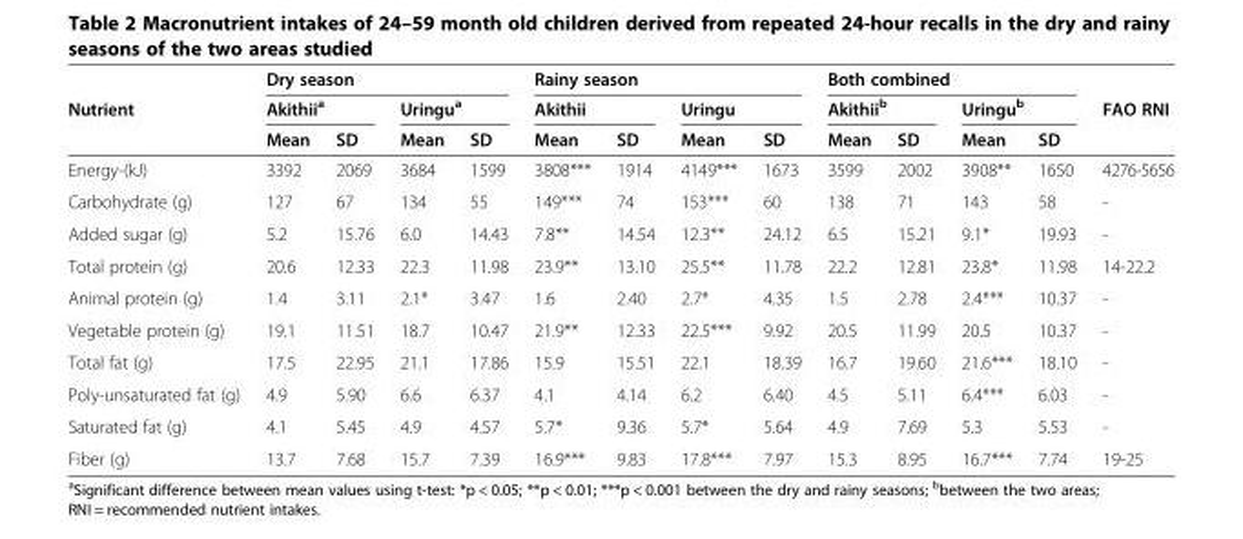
<table><thead><tr><td rowspan="3">Nutrient</td><td colspan="4">Dry season</td><td colspan="4">Rainy season</td><td colspan="4">Both combined</td><td rowspan="3">FAO RNI</td></tr><tr><td colspan="2">Akithii<sup>a</sup></td><td colspan="2">Uringu<sup>a</sup></td><td colspan="2">Akithii</td><td colspan="2">Uringu</td><td colspan="2">Akithii<sup>b</sup></td><td colspan="2">Uringu<sup>b</sup></td></tr><tr><td>Mean</td><td>SD</td><td>Mean</td><td>SD</td><td>Mean</td><td>SD</td><td>Mean</td><td>SD</td><td>Mean</td><td>SD</td><td>Mean</td><td>SD</td></tr></thead><tbody><tr><td>Energy-(kJ)</td><td>3392</td><td>2069</td><td>3684</td><td>1599</td><td>3808***</td><td>1914</td><td>4149***</td><td>1673</td><td>3599</td><td>2002</td><td>3908**</td><td>1650</td><td>4276-5656</td></tr><tr><td>Carbohydrate (g)</td><td>127</td><td>67</td><td>134</td><td>55</td><td>149***</td><td>74</td><td>153***</td><td>60</td><td>138</td><td>71</td><td>143</td><td>58</td><td>-</td></tr><tr><td>Added sugar (g)</td><td>5.2</td><td>15.76</td><td>6.0</td><td>14.43</td><td>7.8**</td><td>14.54</td><td>12.3**</td><td>24.12</td><td>6.5</td><td>15.21</td><td>9.1*</td><td>19.93</td><td>-</td></tr><tr><td>Total protein (g)</td><td>20.6</td><td>12.33</td><td>22.3</td><td>11.98</td><td>23.9**</td><td>13.10</td><td>25.5**</td><td>11.78</td><td>22.2</td><td>12.81</td><td>23.8*</td><td>11.98</td><td>14-22.2</td></tr><tr><td>Animal protein (g)</td><td>1.4</td><td>3.11</td><td>2.1*</td><td>3.47</td><td>1.6</td><td>2.40</td><td>2.7*</td><td>4.35</td><td>1.5</td><td>2.78</td><td>2.4***</td><td>10.37</td><td>-</td></tr><tr><td>Vegetable protein (g)</td><td>19.1</td><td>11.51</td><td>18.7</td><td>10.47</td><td>21.9**</td><td>12.33</td><td>22.5***</td><td>9.92</td><td>20.5</td><td>11.99</td><td>20.5</td><td>10.37</td><td>-</td></tr><tr><td>Total fat (g)</td><td>17.5</td><td>22.95</td><td>21.1</td><td>17.86</td><td>15.9</td><td>15.51</td><td>22.1</td><td>18.39</td><td>16.7</td><td>19.60</td><td>21.6***</td><td>18.10</td><td>-</td></tr><tr><td>Poly-unsaturated fat (g)</td><td>4.9</td><td>5.90</td><td>6.6</td><td>6.37</td><td>4.1</td><td>4.14</td><td>6.2</td><td>6.40</td><td>4.5</td><td>5.11</td><td>6.4***</td><td>6.03</td><td>-</td></tr><tr><td>Saturated fat (g)</td><td>4.1</td><td>5.45</td><td>4.9</td><td>4.57</td><td>5.7*</td><td>9.36</td><td>5.7*</td><td>5.64</td><td>4.9</td><td>7.69</td><td>5.3</td><td>5.53</td><td>-</td></tr><tr><td>Fiber (g)</td><td>13.7</td><td>7.68</td><td>15.7</td><td>7.39</td><td>16.9***</td><td>9.83</td><td>17.8***</td><td>7.97</td><td>15.3</td><td>8.95</td><td>16.7***</td><td>7.74</td><td>19-25</td></tr></tbody></table>